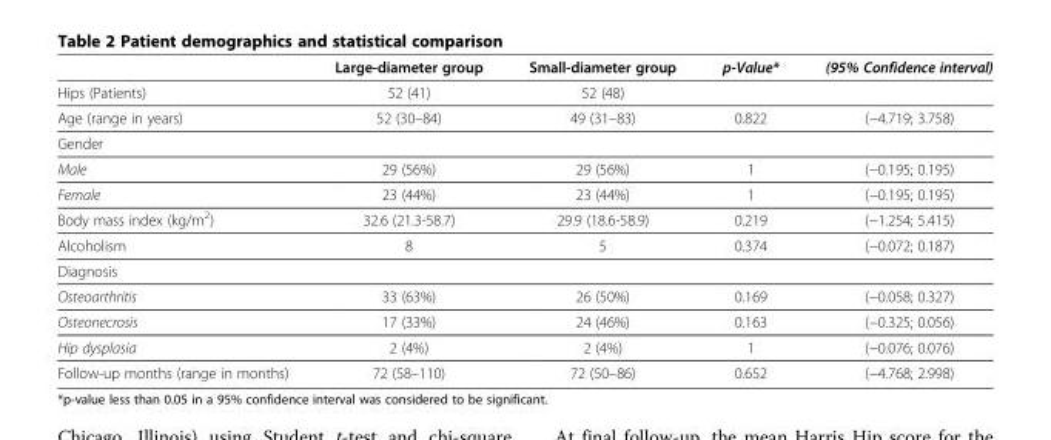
<table><thead><tr><td></td><td>Large-diameter group</td><td>Small-diameter group</td><td>p-Value*</td><td>(95% Confidence interval)</td></tr></thead><tbody><tr><td>Hips (Patients)</td><td>52 (41)</td><td>52 (48)</td><td></td><td></td></tr><tr><td>Age (range in years)</td><td>52 (30–84)</td><td>49 (31–83)</td><td>0.822</td><td>(−4.719; 3.758)</td></tr><tr><td colspan="5">Gender</td></tr><tr><td>Male</td><td>29 (56%)</td><td>29 (56%)</td><td>1</td><td>(−0.195; 0.195)</td></tr><tr><td>Female</td><td>23 (44%)</td><td>23 (44%)</td><td>1</td><td>(−0.195; 0.195)</td></tr><tr><td>Body mass index (kg/m<sup>2</sup>)</td><td>32.6 (21.3-58.7)</td><td>29.9 (18.6-58.9)</td><td>0.219</td><td>(−1.254; 5.415)</td></tr><tr><td>Alcoholism</td><td>8</td><td>5</td><td>0.374</td><td>(−0.072; 0.187)</td></tr><tr><td colspan="5">Diagnosis</td></tr><tr><td>Osteoarthritis</td><td>33 (63%)</td><td>26 (50%)</td><td>0.169</td><td>(−0.058; 0.327)</td></tr><tr><td>Osteonecrosis</td><td>17 (33%)</td><td>24 (46%)</td><td>0.163</td><td>(−0.325; 0.056)</td></tr><tr><td>Hip dysplasia</td><td>2 (4%)</td><td>2 (4%)</td><td>1</td><td>(−0.076; 0.076)</td></tr><tr><td>Follow-up months (range in months)</td><td>72 (58–110)</td><td>72 (50–86)</td><td>0.652</td><td>(−4.768; 2.998)</td></tr></tbody></table>